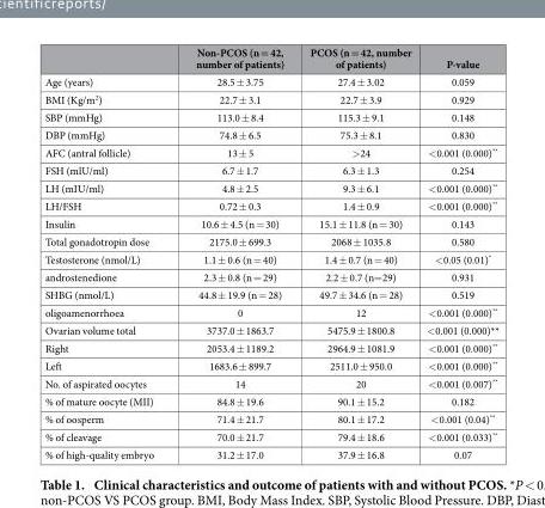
<table><thead><tr><td></td><td>Non-PCOS (n = 42, number of patients)</td><td>PCOS (n = 42, number of patients)</td><td>P-value</td></tr></thead><tbody><tr><td>Age (years)</td><td>28.5 ± 3.75</td><td>27.4 ± 3.02</td><td>0.059</td></tr><tr><td>BMI (Kg/m<sup>2</sup>)</td><td>22.7 ± 3.1</td><td>22.7 ± 3.9</td><td>0.929</td></tr><tr><td>SBP (mmHg)</td><td>113.0 ± 8.4</td><td>115.3 ± 9.1</td><td>0.148</td></tr><tr><td>DBP (mmHg)</td><td>74.8 ± 6.5</td><td>75.3 ± 8.1</td><td>0.830</td></tr><tr><td>AFC (antral follicle)</td><td>13 ± 5</td><td>&gt; 24</td><td>&lt; 0.001 (0.000)**</td></tr><tr><td>FSH (mlU/ml)</td><td>6.7 ± 1.7</td><td>6.3 ± 1.3</td><td>0.254</td></tr><tr><td>LH (mIU/ml)</td><td>4.8 ± 2.5</td><td>9.3 ± 6.1</td><td>&lt; 0.001 (0.000)**</td></tr><tr><td>LH/FSH</td><td>0.72 ± 0.3</td><td>1.4 ± 0.9</td><td>&lt; 0.001 (0.000)**</td></tr><tr><td>Insulin</td><td>10.6 ± 4.5 (n = 30)</td><td>15.1 ± 11.8 (n = 30)</td><td>0.143</td></tr><tr><td>Total gonadotropin dose</td><td>2175.0 ± 699.3</td><td>2068 ± 1035.8</td><td>0.580</td></tr><tr><td>Testosterone (nmol/L)</td><td>1.1 ± 0.6 (n = 40)</td><td>1.4 ± 0.7 (n = 40)</td><td>&lt; 0.05 (0.01)*</td></tr><tr><td>androstenedione</td><td>2.3 ± 0.8 (n = 29)</td><td>2.2 ± 0.7 (n= 29)</td><td>0.931</td></tr><tr><td>SHBG (nmol/L)</td><td>44.8 ± 19.9 (n = 28)</td><td>49.7 ± 34.6 (n = 28)</td><td>0.519</td></tr><tr><td>oligoamenorrhoea</td><td>0</td><td>12</td><td>&lt; 0.001 (0.000)**</td></tr><tr><td>Ovarian volume total</td><td>3737.0 ± 1863.7</td><td>5475.9 ± 1800.8</td><td>&lt; 0.001 (0.000)**</td></tr><tr><td>Right</td><td>2053.4 ± 1189.2</td><td>2964.9 ± 1081.9</td><td>&lt; 0.001 (0.000)**</td></tr><tr><td>Left</td><td>1683.6 ± 899.7</td><td>2511.0 ± 950.0</td><td>&lt; 0.001 (0.000)**</td></tr><tr><td>No. of aspirated oocytes</td><td>14</td><td>20</td><td>&lt; 0.001 (0.007)**</td></tr><tr><td>% of mature oocyte (MII)</td><td>84.8 ± 19.6</td><td>90.1 ± 15.2</td><td>0.182</td></tr><tr><td>% of oosperm</td><td>71.4 ± 21.7</td><td>80.1 ± 17.2</td><td>&lt; 0.001 (0.04)**</td></tr><tr><td>% of cleavage</td><td>70.0 ± 21.7</td><td>79.4 ± 18.6</td><td>&lt; 0.001 (0.033)**</td></tr><tr><td>% of high-quality embryo</td><td>31.2 ± 17.0</td><td>37.9 ± 16.8</td><td>0.07</td></tr></tbody></table>